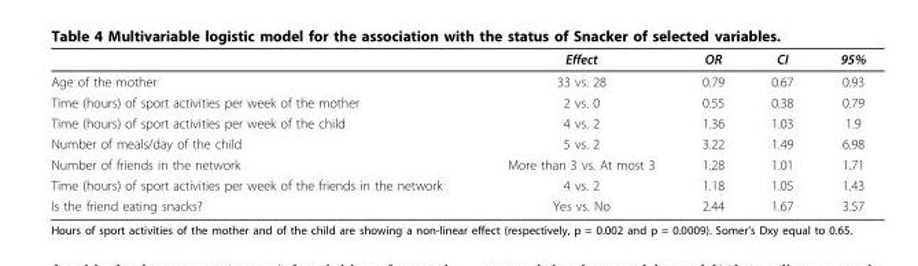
<table><thead><tr><td></td><td>Effect</td><td>OR</td><td>CI</td><td>95%</td></tr></thead><tbody><tr><td>Age of the mother</td><td>33 vs. 28</td><td>0.79</td><td>0.67</td><td>0.93</td></tr><tr><td>Time (hours) of sport activities per week of the mother</td><td>2 vs. 0</td><td>0.55</td><td>0.38</td><td>0.79</td></tr><tr><td>Time (hours) of sport activities per week of the child</td><td>4 vs. 2</td><td>1.36</td><td>1.03</td><td>1.9</td></tr><tr><td>Number of meals/day of the child</td><td>5 vs. 2</td><td>3.22</td><td>1.49</td><td>6.98</td></tr><tr><td>Number of friends in the network</td><td>More than 3 vs. At most 3</td><td>1.28</td><td>1.01</td><td>1.71</td></tr><tr><td>Time (hours) of sport activities per week of the friends in the network</td><td>4 vs. 2</td><td>1.18</td><td>1.05</td><td>1.43</td></tr><tr><td>Is the friend eating snacks?</td><td>Yes vs. No</td><td>2.44</td><td>1.67</td><td>3.57</td></tr></tbody></table>